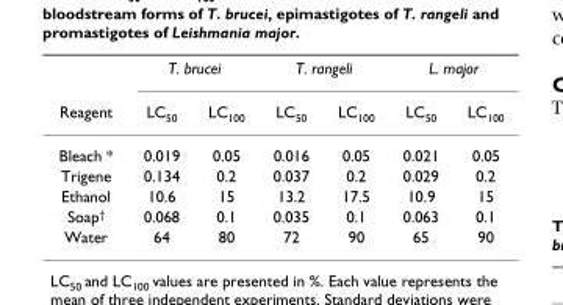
<table><thead><tr><td rowspan="2">Reagent</td><td colspan="2">T. brucei</td><td colspan="2">T. rangeli</td><td colspan="2">L. major</td></tr><tr><td>LC<sub>50</sub></td><td>LC<sub>100</sub></td><td>LC<sub>50</sub></td><td>LC<sub>100</sub></td><td>LC<sub>50</sub></td><td>LC<sub>100</sub></td></tr></thead><tbody><tr><td>Bleach *</td><td>0.019</td><td>0.05</td><td>0.016</td><td>0.05</td><td>0.021</td><td>0.05</td></tr><tr><td>Trigene</td><td>0.134</td><td>0.2</td><td>0.037</td><td>0.2</td><td>0.029</td><td>0.2</td></tr><tr><td>Ethanol</td><td>10.6</td><td>15</td><td>13.2</td><td>17.5</td><td>10.9</td><td>15</td></tr><tr><td>Soap<sup>†</sup></td><td>0.068</td><td>0.1</td><td>0.035</td><td>0.1</td><td>0.063</td><td>0.1</td></tr><tr><td>Water</td><td>64</td><td>80</td><td>72</td><td>90</td><td>65</td><td>90</td></tr></tbody></table>